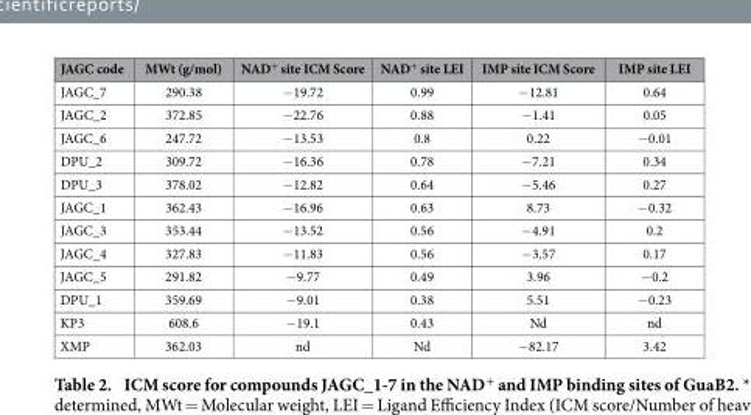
<table><thead><tr><td>JAGC code</td><td>MWt (g/mol)</td><td>NAD<sup>+</sup> site ICM Score</td><td>NAD<sup>+</sup> site LEI</td><td>IMP site ICM Score</td><td>IMP site LEI</td></tr></thead><tbody><tr><td>JAGC_7</td><td>290.38</td><td>− 19.72</td><td>0.99</td><td>− 12.81</td><td>0.64</td></tr><tr><td>JAGC_2</td><td>372.85</td><td>− 22.76</td><td>0.88</td><td>− 1.41</td><td>0.05</td></tr><tr><td>JAGC_6</td><td>247.72</td><td>− 13.53</td><td>0.8</td><td>0.22</td><td>− 0.01</td></tr><tr><td>DPU_2</td><td>309.72</td><td>− 16.36</td><td>0.78</td><td>− 7.21</td><td>0.34</td></tr><tr><td>DPU_3</td><td>378.02</td><td>− 12.82</td><td>0.64</td><td>− 5.46</td><td>0.27</td></tr><tr><td>JAGC_1</td><td>362.43</td><td>− 16.96</td><td>0.63</td><td>8.73</td><td>− 0.32</td></tr><tr><td>JAGC_3</td><td>353.44</td><td>− 13.52</td><td>0.56</td><td>− 4.91</td><td>0.2</td></tr><tr><td>JAGC_4</td><td>327.83</td><td>− 11.83</td><td>0.56</td><td>− 3.57</td><td>0.17</td></tr><tr><td>JAGC_5</td><td>291.82</td><td>− 9.77</td><td>0.49</td><td>3.96</td><td>− 0.2</td></tr><tr><td>DPU_1</td><td>359.69</td><td>− 9.01</td><td>0.38</td><td>5.51</td><td>− 0.23</td></tr><tr><td>KP3</td><td>608.6</td><td>− 19.1</td><td>0.43</td><td>Nd</td><td>nd</td></tr><tr><td>XMP</td><td>362.03</td><td>nd</td><td>Nd</td><td>− 82.17</td><td>3.42</td></tr></tbody></table>